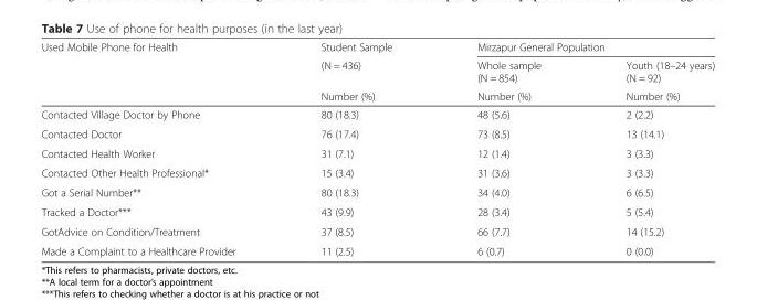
<table><thead><tr><td rowspan="3">Used Mobile Phone for Health</td><td rowspan="3">Student Sample (N = 436) Number (%)</td><td colspan="2">Mirzapur General Population</td></tr><tr><td rowspan="2">Whole sample (N = 854) Number (%)</td><td rowspan="2">Youth (18–24 years) (N = 92) Number (%)</td></tr><tr></tr></thead><tbody><tr><td>Contacted Village Doctor by Phone</td><td>80 (18.3)</td><td>48 (5.6)</td><td>2 (2.2)</td></tr><tr><td>Contacted Doctor</td><td>76 (17.4)</td><td>73 (8.5)</td><td>13 (14.1)</td></tr><tr><td>Contacted Health Worker</td><td>31 (7.1)</td><td>12 (1.4)</td><td>3 (3.3)</td></tr><tr><td>Contacted Other Health Professional*</td><td>15 (3.4)</td><td>31 (3.6)</td><td>3 (3.3)</td></tr><tr><td>Got a Serial Number**</td><td>80 (18.3)</td><td>34 (4.0)</td><td>6 (6.5)</td></tr><tr><td>Tracked a Doctor***</td><td>43 (9.9)</td><td>28 (3.4)</td><td>5 (5.4)</td></tr><tr><td>GotAdvice on Condition/Treatment</td><td>37 (8.5)</td><td>66 (7.7)</td><td>14 (15.2)</td></tr><tr><td>Made a Complaint to a Healthcare Provider</td><td>11 (2.5)</td><td>6 (0.7)</td><td>0 (0.0)</td></tr></tbody></table>